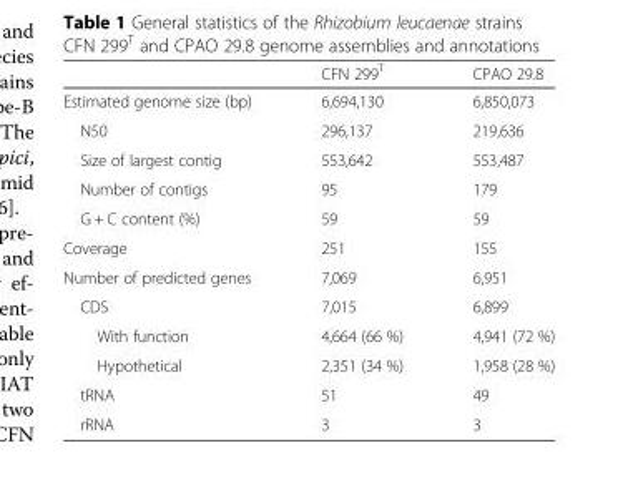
<table><thead><tr><td></td><td>CFN 299<sup>T</sup></td><td>CPAO 29.8</td></tr></thead><tbody><tr><td>Estimated genome size (bp)</td><td>6,694,130</td><td>6,850,073</td></tr><tr><td>N50</td><td>296,137</td><td>219,636</td></tr><tr><td>Size of largest contig</td><td>553,642</td><td>553,487</td></tr><tr><td>Number of contigs</td><td>95</td><td>179</td></tr><tr><td>G + C content (%)</td><td>59</td><td>59</td></tr><tr><td>Coverage</td><td>251</td><td>155</td></tr><tr><td>Number of predicted genes</td><td>7,069</td><td>6,951</td></tr><tr><td>CDS</td><td>7,015</td><td>6,899</td></tr><tr><td>With function</td><td>4,664 (66 %)</td><td>4,941 (72 %)</td></tr><tr><td>Hypothetical</td><td>2,351 (34 %)</td><td>1,958 (28 %)</td></tr><tr><td>tRNA</td><td>51</td><td>49</td></tr><tr><td>rRNA</td><td>3</td><td>3</td></tr></tbody></table>